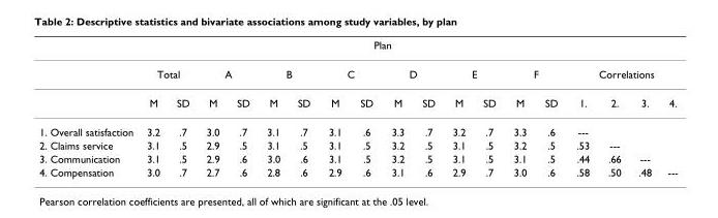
<table><thead><tr><td rowspan="3"></td><td></td><td></td><td colspan="12">Plan</td><td></td><td></td><td></td><td></td></tr><tr><td colspan="2">Total</td><td colspan="2">A</td><td colspan="2">B</td><td colspan="2">C</td><td colspan="2">D</td><td colspan="2">E</td><td colspan="2">F</td><td colspan="4">Correlations</td></tr><tr><td>M</td><td>SD</td><td>M</td><td>SD</td><td>M</td><td>SD</td><td>M</td><td>SD</td><td>M</td><td>SD</td><td>M</td><td>SD</td><td>M</td><td>SD</td><td>1.</td><td>2.</td><td>3.</td><td>4.</td></tr></thead><tbody><tr><td>1. Overall satisfaction</td><td>3.2</td><td>.7</td><td>3.0</td><td>.7</td><td>3.1</td><td>.7</td><td>3.1</td><td>.6</td><td>3.3</td><td>.7</td><td>3.2</td><td>.7</td><td>3.3</td><td>.6</td><td>---</td><td></td><td></td><td></td></tr><tr><td>2. Claims service</td><td>3.1</td><td>.5</td><td>2.9</td><td>.5</td><td>3.1</td><td>.5</td><td>3.1</td><td>.5</td><td>3.2</td><td>.5</td><td>3.1</td><td>.5</td><td>3.2</td><td>.5</td><td>.53</td><td>---</td><td></td><td></td></tr><tr><td>3. Communication</td><td>3.1</td><td>.5</td><td>2.9</td><td>.6</td><td>3.0</td><td>.6</td><td>3.1</td><td>.5</td><td>3.2</td><td>.5</td><td>3.1</td><td>.5</td><td>3.1</td><td>.5</td><td>.44</td><td>.66</td><td>---</td><td></td></tr><tr><td>4. Compensation</td><td>3.0</td><td>.7</td><td>2.7</td><td>.6</td><td>2.8</td><td>.6</td><td>2.9</td><td>.6</td><td>3.1</td><td>.6</td><td>2.9</td><td>.7</td><td>3.0</td><td>.6</td><td>.58</td><td>.50</td><td>.48</td><td>---</td></tr></tbody></table>